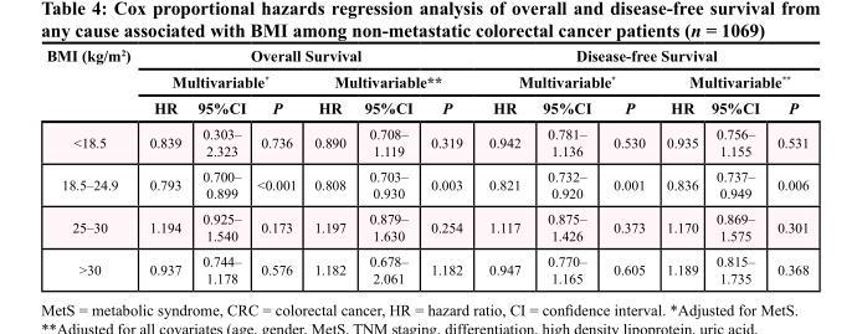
<table><thead><tr><td rowspan="3">BMI (kg/m<sup>2</sup>)</td><td colspan="6">Overall Survival</td><td colspan="6">Disease-free Survival</td></tr><tr><td colspan="3">Multivariable*</td><td colspan="3">Multivariable**</td><td colspan="3">Multivariable*</td><td colspan="3">Multivariable**</td></tr><tr><td>HR</td><td>95%CI</td><td>P</td><td>HR</td><td>95%CI</td><td>P</td><td>HR</td><td>95%CI</td><td>P</td><td>HR</td><td>95%CI</td><td>P</td></tr></thead><tbody><tr><td>&lt;18.5</td><td>0.839</td><td>0.303– 2.323</td><td>0.736</td><td>0.890</td><td>0.708– 1.119</td><td>0.319</td><td>0.942</td><td>0.781– 1.136</td><td>0.530</td><td>0.935</td><td>0.756– 1.155</td><td>0.531</td></tr><tr><td>18.5–24.9</td><td>0.793</td><td>0.700– 0.899</td><td>&lt;0.001</td><td>0.808</td><td>0.703– 0.930</td><td>0.003</td><td>0.821</td><td>0.732– 0.920</td><td>0.001</td><td>0.836</td><td>0.737– 0.949</td><td>0.006</td></tr><tr><td>25–30</td><td>1.194</td><td>0.925– 1.540</td><td>0.173</td><td>1.197</td><td>0.879– 1.630</td><td>0.254</td><td>1.117</td><td>0.875– 1.426</td><td>0.373</td><td>1.170</td><td>0.869– 1.575</td><td>0.301</td></tr><tr><td>&gt;30</td><td>0.937</td><td>0.744– 1.178</td><td>0.576</td><td>1.182</td><td>0.678– 2.061</td><td>1.182</td><td>0.947</td><td>0.770– 1.165</td><td>0.605</td><td>1.189</td><td>0.815– 1.735</td><td>0.368</td></tr></tbody></table>